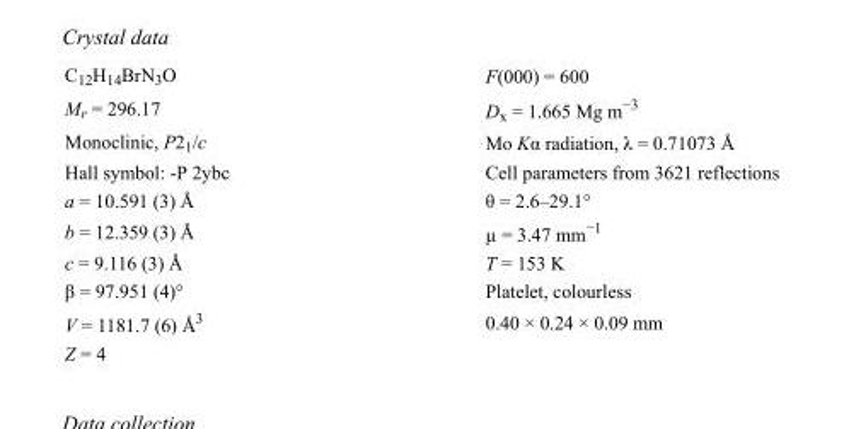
<table><tbody><tr><td>C<sub>12</sub>H<sub>14</sub>BrN<sub>3</sub>O</td><td>F(000) = 600</td></tr><tr><td>M<sub>r</sub> = 296.17</td><td>D<sub>x</sub> = 1.665 Mg m<sup>−3</sup></td></tr><tr><td>Monoclinic, P2<sub>1</sub>/c</td><td>Mo Kα radiation, λ = 0.71073 Å</td></tr><tr><td>Hall symbol: -P 2ybc</td><td>Cell parameters from 3621 reflections</td></tr><tr><td>a = 10.591 (3) Å</td><td>θ = 2.6–29.1°</td></tr><tr><td>b = 12.359 (3) Å</td><td>µ = 3.47 mm<sup>−1</sup></td></tr><tr><td>c = 9.116 (3) Å</td><td>T = 153 K</td></tr><tr><td>β = 97.951 (4)°</td><td>Platelet, colourless</td></tr><tr><td>V = 1181.7 (6) Å<sup>3</sup></td><td>0.40 × 0.24 × 0.09 mm</td></tr><tr><td>Z = 4</td><td></td></tr></tbody></table>